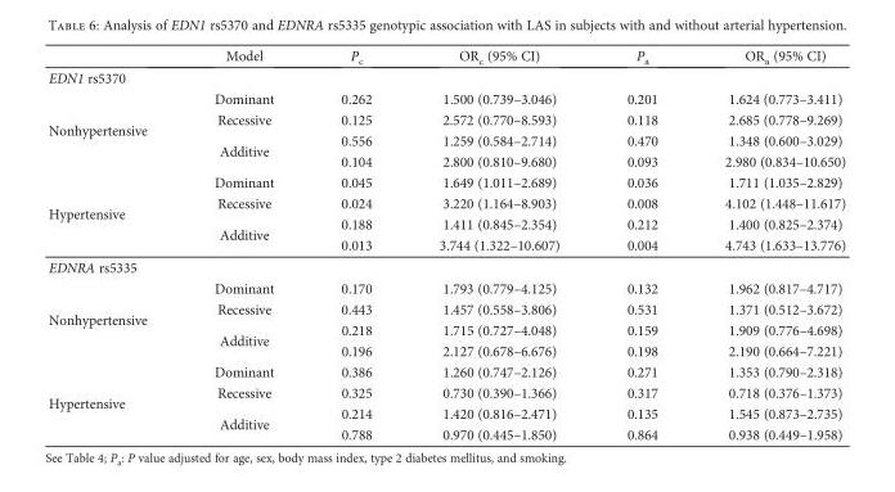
<table><thead><tr><td></td><td>Model</td><td>P<sub>c</sub></td><td>OR<sub>c</sub> (95% CI)</td><td>P<sub>a</sub></td><td>OR<sub>a</sub> (95% CI)</td></tr></thead><tbody><tr><td colspan="6">EDN1 rs5370</td></tr><tr><td rowspan="4">Nonhypertensive</td><td>Dominant</td><td>0.262</td><td>1.500 (0.739–3.046)</td><td>0.201</td><td>1.624 (0.773–3.411)</td></tr><tr><td>Recessive</td><td>0.125</td><td>2.572 (0.770–8.593)</td><td>0.118</td><td>2.685 (0.778–9.269)</td></tr><tr><td rowspan="2">Additive</td><td>0.556</td><td>1.259 (0.584–2.714)</td><td>0.470</td><td>1.348 (0.600–3.029)</td></tr><tr><td>0.104</td><td>2.800 (0.810–9.680)</td><td>0.093</td><td>2.980 (0.834–10.650)</td></tr><tr><td rowspan="4">Hypertensive</td><td>Dominant</td><td>0.045</td><td>1.649 (1.011–2.689)</td><td>0.036</td><td>1.711 (1.035–2.829)</td></tr><tr><td>Recessive</td><td>0.024</td><td>3.220 (1.164–8.903)</td><td>0.008</td><td>4.102 (1.448–11.617)</td></tr><tr><td rowspan="2">Additive</td><td>0.188</td><td>1.411 (0.845–2.354)</td><td>0.212</td><td>1.400 (0.825–2.374)</td></tr><tr><td>0.013</td><td>3.744 (1.322–10.607)</td><td>0.004</td><td>4.743 (1.633–13.776)</td></tr><tr><td colspan="6">EDNRA rs5335</td></tr><tr><td rowspan="4">Nonhypertensive</td><td>Dominant</td><td>0.170</td><td>1.793 (0.779–4.125)</td><td>0.132</td><td>1.962 (0.817–4.717)</td></tr><tr><td>Recessive</td><td>0.443</td><td>1.457 (0.558–3.806)</td><td>0.531</td><td>1.371 (0.512–3.672)</td></tr><tr><td rowspan="2">Additive</td><td>0.218</td><td>1.715 (0.727–4.048)</td><td>0.159</td><td>1.909 (0.776–4.698)</td></tr><tr><td>0.196</td><td>2.127 (0.678–6.676)</td><td>0.198</td><td>2.190 (0.664–7.221)</td></tr><tr><td rowspan="4">Hypertensive</td><td>Dominant</td><td>0.386</td><td>1.260 (0.747–2.126)</td><td>0.271</td><td>1.353 (0.790–2.318)</td></tr><tr><td>Recessive</td><td>0.325</td><td>0.730 (0.390–1.366)</td><td>0.317</td><td>0.718 (0.376–1.373)</td></tr><tr><td rowspan="2">Additive</td><td>0.214</td><td>1.420 (0.816–2.471)</td><td>0.135</td><td>1.545 (0.873–2.735)</td></tr><tr><td>0.788</td><td>0.970 (0.445–1.850)</td><td>0.864</td><td>0.938 (0.449–1.958)</td></tr></tbody></table>